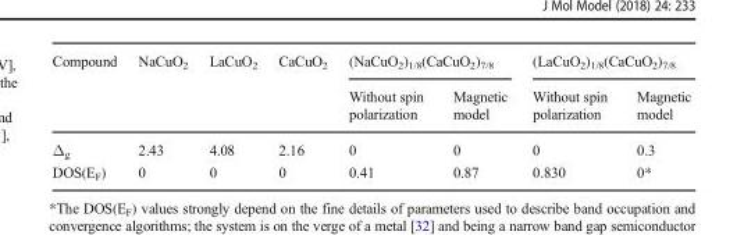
<table><thead><tr><td rowspan="2">Compound</td><td rowspan="2">NaCuO<sub>2</sub></td><td rowspan="2">LaCuO<sub>2</sub></td><td rowspan="2">CaCuO<sub>2</sub></td><td colspan="2">(NaCuO<sub>2</sub>)<sub>1/8</sub>(CaCuO<sub>2</sub>)<sub>7/8</sub></td><td colspan="2">(LaCuO<sub>2</sub>)<sub>1/8</sub>(CaCuO<sub>2</sub>)<sub>7/8</sub></td></tr><tr><td>Without spin polarization</td><td>Magnetic model</td><td>Without spin polarization</td><td>Magnetic model</td></tr></thead><tbody><tr><td>Δ<sub>g</sub></td><td>2.43</td><td>4.08</td><td>2.16</td><td>0</td><td>0</td><td>0</td><td>0.3</td></tr><tr><td>DOS(E<sub>F</sub>)</td><td>0</td><td>0</td><td>0</td><td>0.41</td><td>0.87</td><td>0.830</td><td>0*</td></tr></tbody></table>